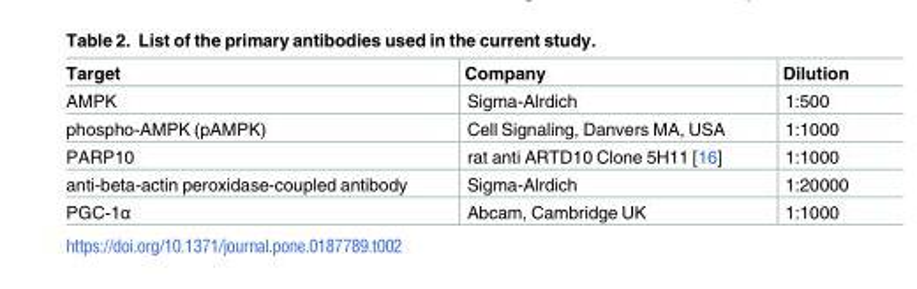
<table><thead><tr><td>Target</td><td>Company</td><td>Dilution</td></tr></thead><tbody><tr><td>AMPK</td><td>Sigma-Alrdich</td><td>1:500</td></tr><tr><td>phospho-AMPK (pAMPK)</td><td>Cell Signaling, Danvers MA, USA</td><td>1:1000</td></tr><tr><td>PARP10</td><td>rat anti ARTD10 Clone 5H11 [16]</td><td>1:1000</td></tr><tr><td>anti-beta-actin peroxidase-coupled antibody</td><td>Sigma-Alrdich</td><td>1:20000</td></tr><tr><td>PGC-1α</td><td>Abcam, Cambridge UK</td><td>1:1000</td></tr></tbody></table>